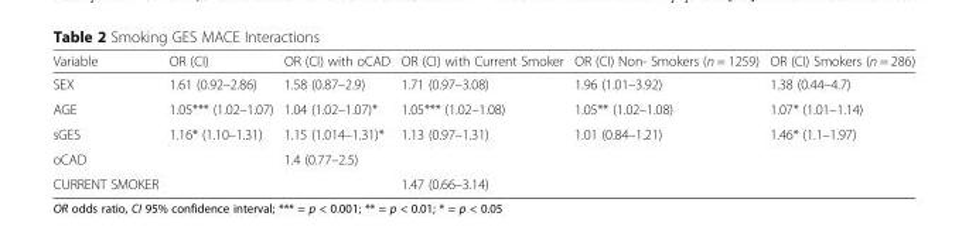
<table><thead><tr><td>Variable</td><td>OR (CI)</td><td>OR (CI) with oCAD</td><td>OR (CI) with Current Smoker</td><td>OR (CI) Non- Smokers (n = 1259)</td><td>OR (CI) Smokers (n = 286)</td></tr></thead><tbody><tr><td>SEX</td><td>1.61 (0.92–2.86)</td><td>1.58 (0.87–2.9)</td><td>1.71 (0.97–3.08)</td><td>1.96 (1.01–3.92)</td><td>1.38 (0.44–4.7)</td></tr><tr><td>AGE</td><td>1.05*** (1.02–1.07)</td><td>1.04 (1.02–1.07)*</td><td>1.05*** (1.02–1.08)</td><td>1.05** (1.02–1.08)</td><td>1.07* (1.01–1.14)</td></tr><tr><td>sGES</td><td>1.16* (1.10–1.31)</td><td>1.15 (1.014–1.31)*</td><td>1.13 (0.97–1.31)</td><td>1.01 (0.84–1.21)</td><td>1.46* (1.1–1.97)</td></tr><tr><td>oCAD</td><td></td><td>1.4 (0.77–2.5)</td><td></td><td></td><td></td></tr><tr><td>CURRENT SMOKER</td><td></td><td></td><td>1.47 (0.66–3.14)</td><td></td><td></td></tr></tbody></table>